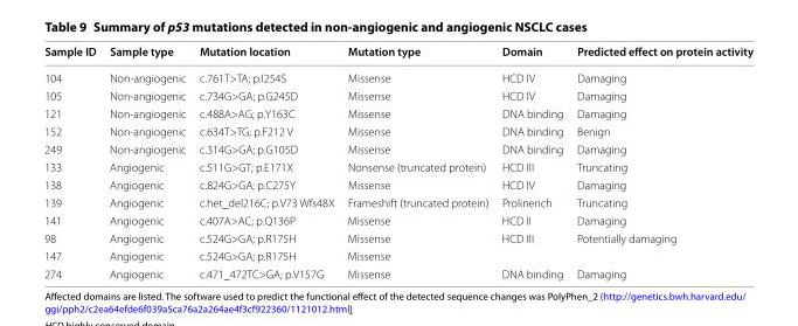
<table><thead><tr><td>Sample ID</td><td>Sample type</td><td>Mutation location</td><td>Mutation type</td><td>Domain</td><td>Predicted effect on protein activity</td></tr></thead><tbody><tr><td>104</td><td>Non‑angiogenic</td><td>c.761T&gt;TA; p.I254S</td><td>Missense</td><td>HCD IV</td><td>Damaging</td></tr><tr><td>105</td><td>Non‑angiogenic</td><td>c.734G&gt;GA; p.G245D</td><td>Missense</td><td>HCD IV</td><td>Damaging</td></tr><tr><td>121</td><td>Non‑angiogenic</td><td>c.488A&gt;AG; p.Y163C</td><td>Missense</td><td>DNA binding</td><td>Damaging</td></tr><tr><td>152</td><td>Non‑angiogenic</td><td>c.634T&gt;TG; p.F212 V</td><td>Missense</td><td>DNA binding</td><td>Benign</td></tr><tr><td>249</td><td>Non‑angiogenic</td><td>c.314G&gt;GA; p.G105D</td><td>Missense</td><td>DNA binding</td><td>Damaging</td></tr><tr><td>133</td><td>Angiogenic</td><td>c.511G&gt;GT; p.E171X</td><td>Nonsense (truncated protein)</td><td>HCD III</td><td>Truncating</td></tr><tr><td>138</td><td>Angiogenic</td><td>c.824G&gt;GA; p.C275Y</td><td>Missense</td><td>HCD IV</td><td>Damaging</td></tr><tr><td>139</td><td>Angiogenic</td><td>c.het_del216C; p.V73 Wfs48X</td><td>Frameshift (truncated protein)</td><td>Prolinerich</td><td>Truncating</td></tr><tr><td>141</td><td>Angiogenic</td><td>c.407A&gt;AC; p.Q136P</td><td>Missense</td><td>HCD II</td><td>Damaging</td></tr><tr><td>98</td><td>Angiogenic</td><td>c.524G&gt;GA; p.R175H</td><td>Missense</td><td rowspan="2">HCD III</td><td rowspan="2">Potentially damaging</td></tr><tr><td>147</td><td>Angiogenic</td><td>c.524G&gt;GA; p.R175H</td><td>Missense</td></tr><tr><td>274</td><td>Angiogenic</td><td>c.471_472TC&gt;GA; p.V157G</td><td>Missense</td><td>DNA binding</td><td>Damaging</td></tr></tbody></table>